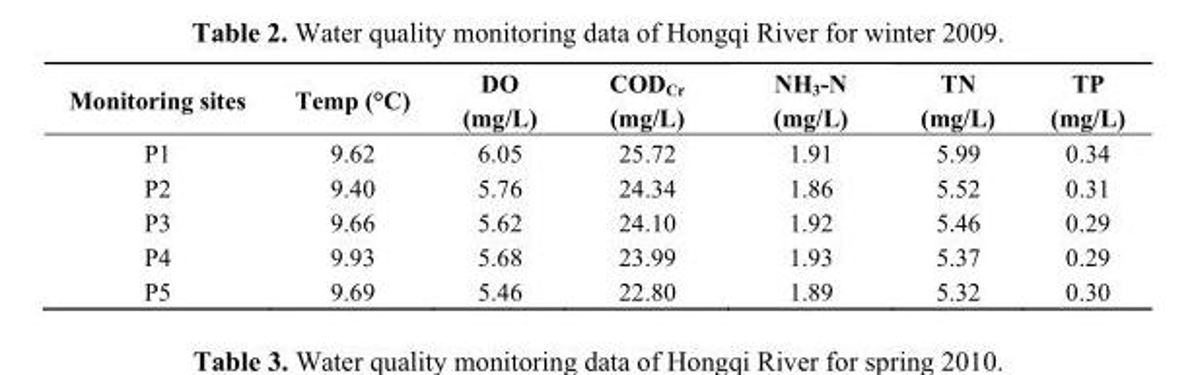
<table><thead><tr><td>Monitoring sites</td><td>Temp (°C)</td><td>DO (mg/L)</td><td>COD<sub>Cr</sub> (mg/L)</td><td>NH<sub>3</sub>-N (mg/L)</td><td>TN (mg/L)</td><td>TP (mg/L)</td></tr></thead><tbody><tr><td>P1</td><td>9.62</td><td>6.05</td><td>25.72</td><td>1.91</td><td>5.99</td><td>0.34</td></tr><tr><td>P2</td><td>9.40</td><td>5.76</td><td>24.34</td><td>1.86</td><td>5.52</td><td>0.31</td></tr><tr><td>P3</td><td>9.66</td><td>5.62</td><td>24.10</td><td>1.92</td><td>5.46</td><td>0.29</td></tr><tr><td>P4</td><td>9.93</td><td>5.68</td><td>23.99</td><td>1.93</td><td>5.37</td><td>0.29</td></tr><tr><td>P5</td><td>9.69</td><td>5.46</td><td>22.80</td><td>1.89</td><td>5.32</td><td>0.30</td></tr></tbody></table>